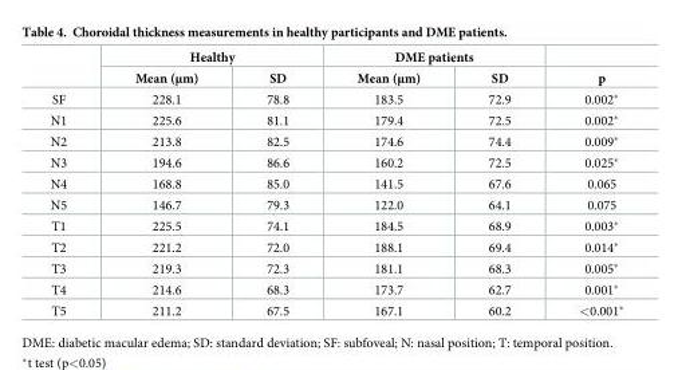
<table><thead><tr><td rowspan="2"></td><td colspan="2">Healthy</td><td colspan="2">DME patients</td><td rowspan="2">p</td></tr><tr><td>Mean (μm)</td><td>SD</td><td>Mean (μm)</td><td>SD</td></tr></thead><tbody><tr><td>SF</td><td>228.1</td><td>78.8</td><td>183.5</td><td>72.9</td><td>0.002*</td></tr><tr><td>N1</td><td>225.6</td><td>81.1</td><td>179.4</td><td>72.5</td><td>0.002*</td></tr><tr><td>N2</td><td>213.8</td><td>82.5</td><td>174.6</td><td>74.4</td><td>0.009*</td></tr><tr><td>N3</td><td>194.6</td><td>86.6</td><td>160.2</td><td>72.5</td><td>0.025*</td></tr><tr><td>N4</td><td>168.8</td><td>85.0</td><td>141.5</td><td>67.6</td><td>0.065</td></tr><tr><td>N5</td><td>146.7</td><td>79.3</td><td>122.0</td><td>64.1</td><td>0.075</td></tr><tr><td>T1</td><td>225.5</td><td>74.1</td><td>184.5</td><td>68.9</td><td>0.003*</td></tr><tr><td>T2</td><td>221.2</td><td>72.0</td><td>188.1</td><td>69.4</td><td>0.014*</td></tr><tr><td>T3</td><td>219.3</td><td>72.3</td><td>181.1</td><td>68.3</td><td>0.005*</td></tr><tr><td>T4</td><td>214.6</td><td>68.3</td><td>173.7</td><td>62.7</td><td>0.001*</td></tr><tr><td>T5</td><td>211.2</td><td>67.5</td><td>167.1</td><td>60.2</td><td>&lt;0.001*</td></tr></tbody></table>